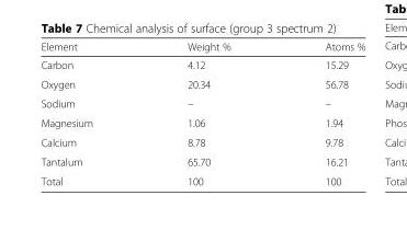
<table><thead><tr><td>Element</td><td>Weight %</td><td>Atoms %</td></tr></thead><tbody><tr><td>Carbon</td><td>4.12</td><td>15.29</td></tr><tr><td>Oxygen</td><td>20.34</td><td>56.78</td></tr><tr><td>Sodium</td><td>–</td><td>–</td></tr><tr><td>Magnesium</td><td>1.06</td><td>1.94</td></tr><tr><td>Calcium</td><td>8.78</td><td>9.78</td></tr><tr><td>Tantalum</td><td>65.70</td><td>16.21</td></tr><tr><td>Total</td><td>100</td><td>100</td></tr></tbody></table>